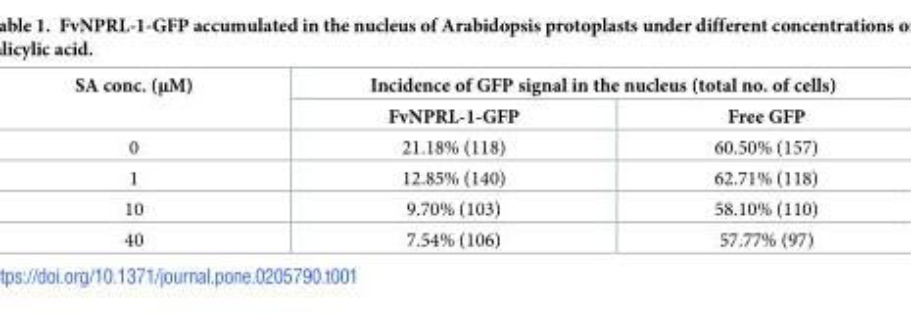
<table><thead><tr><td rowspan="2">SA conc. (μM)</td><td colspan="2">Incidence of GFP signal in the nucleus (total no. of cells)</td></tr><tr><td>FvNPRL-1-GFP</td><td>Free GFP</td></tr></thead><tbody><tr><td>0</td><td>21.18% (118)</td><td>60.50% (157)</td></tr><tr><td>1</td><td>12.85% (140)</td><td>62.71% (118)</td></tr><tr><td>10</td><td>9.70% (103)</td><td>58.10% (110)</td></tr><tr><td>40</td><td>7.54% (106)</td><td>57.77% (97)</td></tr></tbody></table>